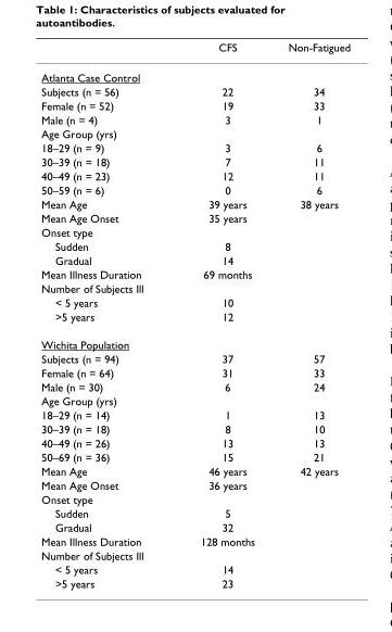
<table><thead><tr><td></td><td>CFS</td><td>Non-Fatigued</td></tr></thead><tbody><tr><td colspan="3">Atlanta Case Control</td></tr><tr><td>Subjects (n = 56)</td><td>22</td><td>34</td></tr><tr><td>Female (n = 52)</td><td>19</td><td>33</td></tr><tr><td>Male (n = 4)</td><td>3</td><td>1</td></tr><tr><td colspan="3">Age Group (yrs)</td></tr><tr><td>18–29 (n = 9)</td><td>3</td><td>6</td></tr><tr><td>30–39 (n = 18)</td><td>7</td><td>11</td></tr><tr><td>40–49 (n = 23)</td><td>12</td><td>11</td></tr><tr><td>50–59 (n = 6)</td><td>0</td><td>6</td></tr><tr><td>Mean Age</td><td>39 years</td><td>38 years</td></tr><tr><td>Mean Age Onset</td><td>35 years</td><td></td></tr><tr><td colspan="3">Onset type</td></tr><tr><td>Sudden</td><td>8</td><td></td></tr><tr><td>Gradual</td><td>14</td><td></td></tr><tr><td>Mean Illness Duration</td><td>69 months</td><td></td></tr><tr><td colspan="3">Number of Subjects Ill</td></tr><tr><td>&lt; 5 years</td><td>10</td><td></td></tr><tr><td>&gt;5 years</td><td>12</td><td></td></tr><tr><td colspan="3">Wichita Population</td></tr><tr><td>Subjects (n = 94)</td><td>37</td><td>57</td></tr><tr><td>Female (n = 64)</td><td>31</td><td>33</td></tr><tr><td>Male (n = 30)</td><td>6</td><td>24</td></tr><tr><td colspan="3">Age Group (yrs)</td></tr><tr><td>18–29 (n = 14)</td><td>1</td><td>13</td></tr><tr><td>30–39 (n = 18)</td><td>8</td><td>10</td></tr><tr><td>40–49 (n = 26)</td><td>13</td><td>13</td></tr><tr><td>50–69 (n = 36)</td><td>15</td><td>21</td></tr><tr><td>Mean Age</td><td>46 years</td><td>42 years</td></tr><tr><td>Mean Age Onset</td><td>36 years</td><td></td></tr><tr><td colspan="3">Onset type</td></tr><tr><td>Sudden</td><td>5</td><td></td></tr><tr><td>Gradual</td><td>32</td><td></td></tr><tr><td>Mean Illness Duration</td><td>128 months</td><td></td></tr><tr><td colspan="3">Number of Subjects Ill</td></tr><tr><td>&lt; 5 years</td><td>14</td><td></td></tr><tr><td>&gt;5 years</td><td>23</td><td></td></tr></tbody></table>